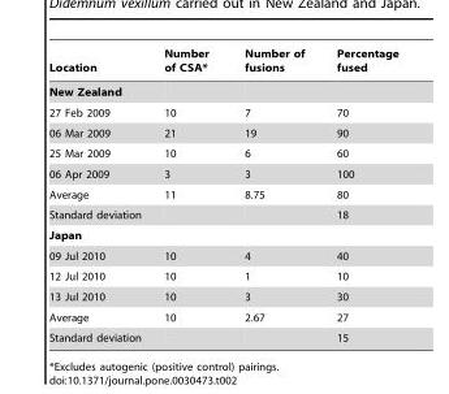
<table><thead><tr><td>Location</td><td>Number of CSA*</td><td>Number of fusions</td><td>Percentage fused</td></tr></thead><tbody><tr><td colspan="4">New Zealand</td></tr><tr><td>27 Feb 2009</td><td>10</td><td>7</td><td>70</td></tr><tr><td>06 Mar 2009</td><td>21</td><td>19</td><td>90</td></tr><tr><td>25 Mar 2009</td><td>10</td><td>6</td><td>60</td></tr><tr><td>06 Apr 2009</td><td>3</td><td>3</td><td>100</td></tr><tr><td>Average</td><td>11</td><td>8.75</td><td>80</td></tr><tr><td>Standard deviation</td><td></td><td></td><td>18</td></tr><tr><td colspan="4">Japan</td></tr><tr><td>09 Jul 2010</td><td>10</td><td>4</td><td>40</td></tr><tr><td>12 Jul 2010</td><td>10</td><td>1</td><td>10</td></tr><tr><td>13 Jul 2010</td><td>10</td><td>3</td><td>30</td></tr><tr><td>Average</td><td>10</td><td>2.67</td><td>27</td></tr><tr><td>Standard deviation</td><td></td><td></td><td>15</td></tr></tbody></table>